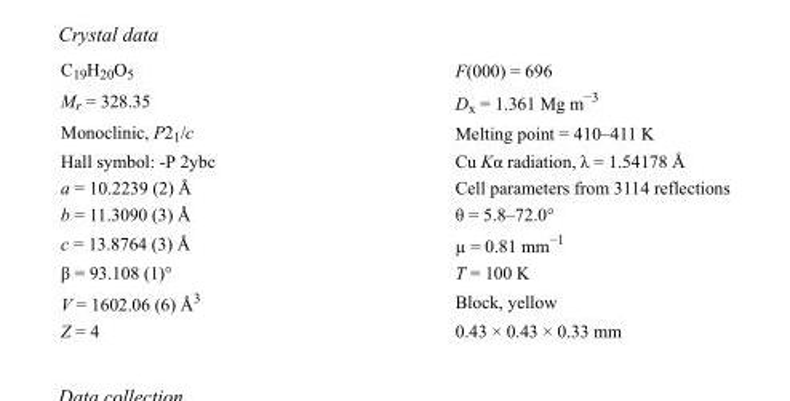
<table><tbody><tr><td>C<sub>19</sub>H<sub>20</sub>O<sub>5</sub></td><td>F(000) = 696</td></tr><tr><td>M<sub>r</sub> = 328.35</td><td>D<sub>x</sub> = 1.361 Mg m<sup>−3</sup></td></tr><tr><td>Monoclinic, P2<sub>1</sub>/c</td><td>Melting point = 410–411 K</td></tr><tr><td>Hall symbol: -P 2ybc</td><td>Cu Kα radiation, λ = 1.54178 Å</td></tr><tr><td>a = 10.2239 (2) Å</td><td>Cell parameters from 3114 reflections</td></tr><tr><td>b = 11.3090 (3) Å</td><td>θ = 5.8–72.0°</td></tr><tr><td>c = 13.8764 (3) Å</td><td>µ = 0.81 mm<sup>−1</sup></td></tr><tr><td>β = 93.108 (1)°</td><td>T = 100 K</td></tr><tr><td>V = 1602.06 (6) Å<sup>3</sup></td><td>Block, yellow</td></tr><tr><td>Z = 4</td><td>0.43 × 0.43 × 0.33 mm</td></tr></tbody></table>